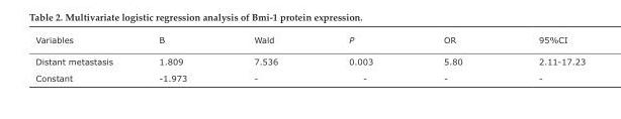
<table><thead><tr><td>Variables</td><td>B</td><td>Wald</td><td>P</td><td>OR</td><td>95%CI</td></tr></thead><tbody><tr><td>Distant metastasis</td><td>1.809</td><td>7.536</td><td>0.003</td><td>5.80</td><td>2.11-17.23</td></tr><tr><td>Constant</td><td>-1.973</td><td>-</td><td>-</td><td>-</td><td>-</td></tr></tbody></table>